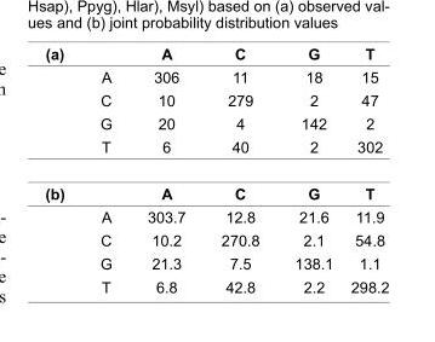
<table><tbody><tr><td rowspan="5">(a)</td><td></td><td>A</td><td>C</td><td>G</td><td>T</td></tr><tr><td>A</td><td>306</td><td>11</td><td>18</td><td>15</td></tr><tr><td>C</td><td>10</td><td>279</td><td>2</td><td>47</td></tr><tr><td>G</td><td>20</td><td>4</td><td>142</td><td>2</td></tr><tr><td>T</td><td>6</td><td>40</td><td>2</td><td>302</td></tr><tr><td rowspan="5">(b)</td><td></td><td>A</td><td>C</td><td>G</td><td>T</td></tr><tr><td>A</td><td>303.7</td><td>12.8</td><td>21.6</td><td>11.9</td></tr><tr><td>C</td><td>10.2</td><td>270.8</td><td>2.1</td><td>54.8</td></tr><tr><td>G</td><td>21.3</td><td>7.5</td><td>138.1</td><td>1.1</td></tr><tr><td>T</td><td>6.8</td><td>42.8</td><td>2.2</td><td>298.2</td></tr></tbody></table>